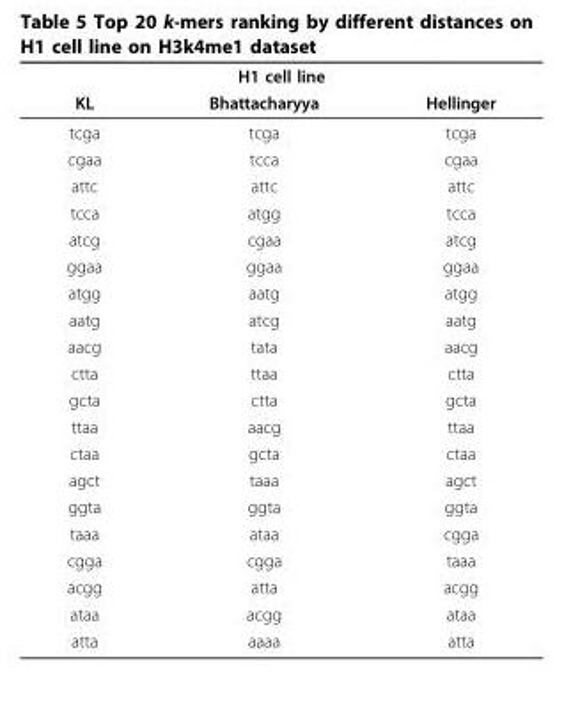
<table><thead><tr><td colspan="3">H1 cell line</td></tr><tr><td>KL</td><td>Bhattacharyya</td><td>Hellinger</td></tr></thead><tbody><tr><td>tcga</td><td>tcga</td><td>tcga</td></tr><tr><td>cgaa</td><td>tcca</td><td>cgaa</td></tr><tr><td>attc</td><td>attc</td><td>attc</td></tr><tr><td>tcca</td><td>atgg</td><td>tcca</td></tr><tr><td>atcg</td><td>cgaa</td><td>atcg</td></tr><tr><td>ggaa</td><td>ggaa</td><td>ggaa</td></tr><tr><td>atgg</td><td>aatg</td><td>atgg</td></tr><tr><td>aatg</td><td>atcg</td><td>aatg</td></tr><tr><td>aacg</td><td>tata</td><td>aacg</td></tr><tr><td>ctta</td><td>ttaa</td><td>ctta</td></tr><tr><td>gcta</td><td>ctta</td><td>gcta</td></tr><tr><td>ttaa</td><td>aacg</td><td>ttaa</td></tr><tr><td>ctaa</td><td>gcta</td><td>ctaa</td></tr><tr><td>agct</td><td>taaa</td><td>agct</td></tr><tr><td>ggta</td><td>ggta</td><td>ggta</td></tr><tr><td>taaa</td><td>ataa</td><td>cgga</td></tr><tr><td>cgga</td><td>cgga</td><td>taaa</td></tr><tr><td>acgg</td><td>atta</td><td>acgg</td></tr><tr><td>ataa</td><td>acgg</td><td>ataa</td></tr><tr><td>atta</td><td>aaaa</td><td>atta</td></tr></tbody></table>